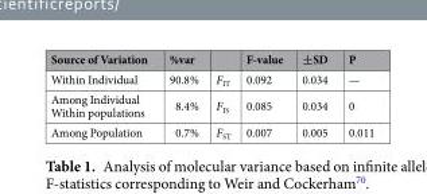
<table><thead><tr><td>Source of Variation</td><td>%var</td><td></td><td>F-value</td><td>±SD</td><td>P</td></tr></thead><tbody><tr><td>Within Individual</td><td>90.8%</td><td>F<sub>IT</sub></td><td>0.092</td><td>0.034</td><td>—</td></tr><tr><td>Among Individual Within populations</td><td>8.4%</td><td>F<sub>IS</sub></td><td>0.085</td><td>0.034</td><td>0</td></tr><tr><td>Among Population</td><td>0.7%</td><td>F<sub>ST</sub></td><td>0.007</td><td>0.005</td><td>0.011</td></tr></tbody></table>